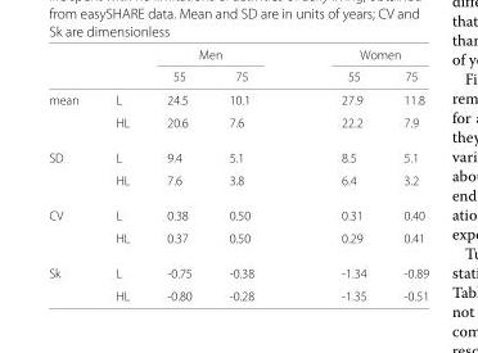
<table><thead><tr><td rowspan="2"></td><td rowspan="2"></td><td colspan="2">Men</td><td colspan="2">Women</td></tr><tr><td>55</td><td>75</td><td>55</td><td>75</td></tr></thead><tbody><tr><td rowspan="2">mean</td><td>L</td><td>24.5</td><td>10.1</td><td>27.9</td><td>11.8</td></tr><tr><td>HL</td><td>20.6</td><td>7.6</td><td>22.2</td><td>7.9</td></tr><tr><td rowspan="2">SD</td><td>L</td><td>9.4</td><td>5.1</td><td>8.5</td><td>5.1</td></tr><tr><td>HL</td><td>7.6</td><td>3.8</td><td>6.4</td><td>3.2</td></tr><tr><td rowspan="2">CV</td><td>L</td><td>0.38</td><td>0.50</td><td>0.31</td><td>0.40</td></tr><tr><td>HL</td><td>0.37</td><td>0.50</td><td>0.29</td><td>0.41</td></tr><tr><td rowspan="2">Sk</td><td>L</td><td>-0.75</td><td>-0.38</td><td>-1.34</td><td>-0.89</td></tr><tr><td>HL</td><td>-0.80</td><td>-0.28</td><td>-1.35</td><td>-0.51</td></tr></tbody></table>